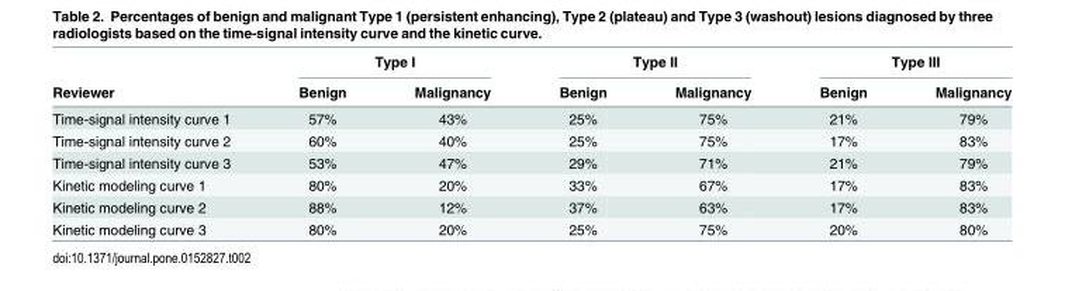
<table><thead><tr><td rowspan="2">Reviewer</td><td colspan="2">Type I</td><td colspan="2">Type II</td><td colspan="2">Type III</td></tr><tr><td>Benign</td><td>Malignancy</td><td>Benign</td><td>Malignancy</td><td>Benign</td><td>Malignancy</td></tr></thead><tbody><tr><td>Time-signal intensity curve 1</td><td>57%</td><td>43%</td><td>25%</td><td>75%</td><td>21%</td><td>79%</td></tr><tr><td>Time-signal intensity curve 2</td><td>60%</td><td>40%</td><td>25%</td><td>75%</td><td>17%</td><td>83%</td></tr><tr><td>Time-signal intensity curve 3</td><td>53%</td><td>47%</td><td>29%</td><td>71%</td><td>21%</td><td>79%</td></tr><tr><td>Kinetic modeling curve 1</td><td>80%</td><td>20%</td><td>33%</td><td>67%</td><td>17%</td><td>83%</td></tr><tr><td>Kinetic modeling curve 2</td><td>88%</td><td>12%</td><td>37%</td><td>63%</td><td>17%</td><td>83%</td></tr><tr><td>Kinetic modeling curve 3</td><td>80%</td><td>20%</td><td>25%</td><td>75%</td><td>20%</td><td>80%</td></tr></tbody></table>